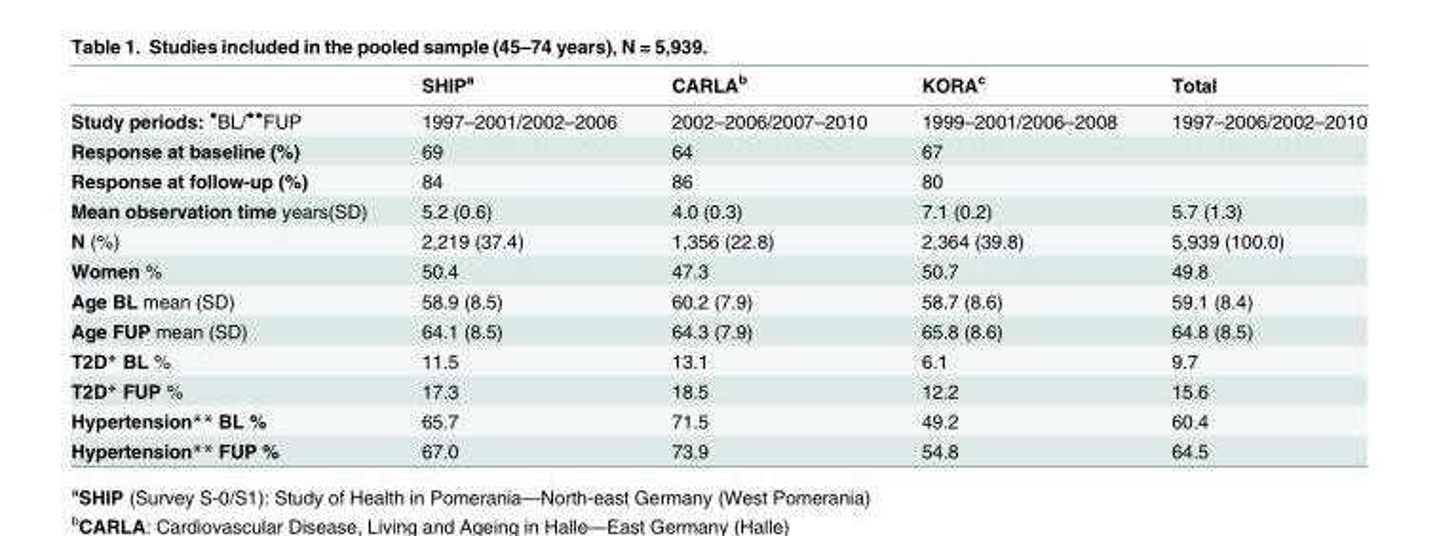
<table><thead><tr><td></td><td>SHIP<sup>a</sup></td><td>CARLA<sup>b</sup></td><td>KORA<sup>c</sup></td><td>Total</td></tr></thead><tbody><tr><td>Study periods: <sup>●</sup>BL/<sup>●●</sup>FUP</td><td>1997–2001/2002–2006</td><td>2002–2006/2007–2010</td><td>1999–2001/2006–2008</td><td>1997–2006/2002–2010</td></tr><tr><td>Response at baseline (%)</td><td>69</td><td>64</td><td>67</td><td></td></tr><tr><td>Response at follow-up (%)</td><td>84</td><td>86</td><td>80</td><td></td></tr><tr><td>Mean observation time years(SD)</td><td>5.2 (0.6)</td><td>4.0 (0.3)</td><td>7.1 (0.2)</td><td>5.7 (1.3)</td></tr><tr><td>N (%)</td><td>2,219 (37.4)</td><td>1,356 (22.8)</td><td>2,364 (39.8)</td><td>5,939 (100.0)</td></tr><tr><td>Women %</td><td>50.4</td><td>47.3</td><td>50.7</td><td>49.8</td></tr><tr><td>Age BL mean (SD)</td><td>58.9 (8.5)</td><td>60.2 (7.9)</td><td>58.7 (8.6)</td><td>59.1 (8.4)</td></tr><tr><td>Age FUP mean (SD)</td><td>64.1 (8.5)</td><td>64.3 (7.9)</td><td>65.8 (8.6)</td><td>64.8 (8.5)</td></tr><tr><td>T2D* BL %</td><td>11.5</td><td>13.1</td><td>6.1</td><td>9.7</td></tr><tr><td>T2D* FUP %</td><td>17.3</td><td>18.5</td><td>12.2</td><td>15.6</td></tr><tr><td>Hypertension** BL %</td><td>65.7</td><td>71.5</td><td>49.2</td><td>60.4</td></tr><tr><td>Hypertension** FUP %</td><td>67.0</td><td>73.9</td><td>54.8</td><td>64.5</td></tr></tbody></table>